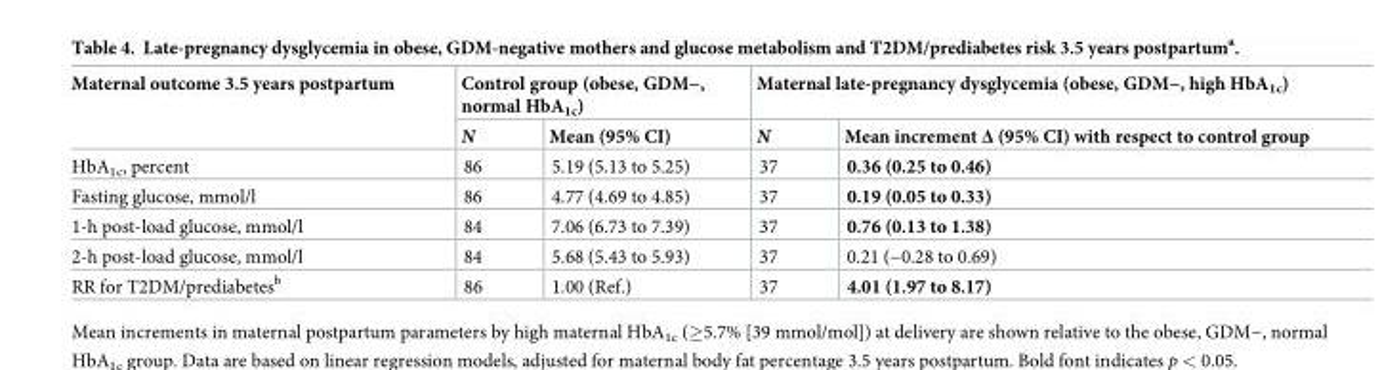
<table><thead><tr><td rowspan="2">Maternal outcome 3.5 years postpartum</td><td colspan="2">Control group (obese, GDM−, normal HbA<sub>1c</sub>)</td><td colspan="2">Maternal late-pregnancy dysglycemia (obese, GDM−, high HbA<sub>1c</sub>)</td></tr><tr><td>N</td><td>Mean (95% CI)</td><td>N</td><td>Mean increment Δ (95% CI) with respect to control group</td></tr></thead><tbody><tr><td>HbA<sub>1c</sub>, percent</td><td>86</td><td>5.19 (5.13 to 5.25)</td><td>37</td><td>0.36 (0.25 to 0.46)</td></tr><tr><td>Fasting glucose, mmol/l</td><td>86</td><td>4.77 (4.69 to 4.85)</td><td>37</td><td>0.19 (0.05 to 0.33)</td></tr><tr><td>1-h post-load glucose, mmol/l</td><td>84</td><td>7.06 (6.73 to 7.39)</td><td>37</td><td>0.76 (0.13 to 1.38)</td></tr><tr><td>2-h post-load glucose, mmol/l</td><td>84</td><td>5.68 (5.43 to 5.93)</td><td>37</td><td>0.21 (−0.28 to 0.69)</td></tr><tr><td>RR for T2DM/prediabetes<sup>b</sup></td><td>86</td><td>1.00 (Ref.)</td><td>37</td><td>4.01 (1.97 to 8.17)</td></tr></tbody></table>